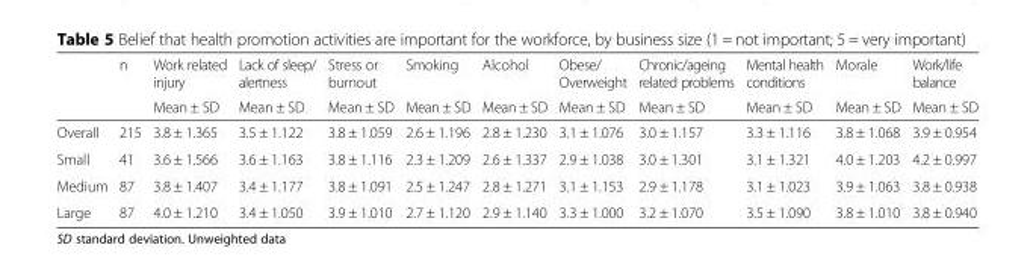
<table><thead><tr><td rowspan="2"></td><td rowspan="2">n</td><td rowspan="2">Work related injury Mean ± SD</td><td rowspan="2">Lack of sleep/ alertness Mean ± SD</td><td rowspan="2">Stress or burnout Mean ± SD</td><td rowspan="2">Smoking Mean ± SD</td><td rowspan="2">Alcohol Mean ± SD</td><td rowspan="2">Obese/ Overweight Mean ± SD</td><td rowspan="2">Chronic/ageing related problems Mean ± SD</td><td rowspan="2">Mental health conditions Mean ± SD</td><td rowspan="2">Morale Mean ± SD</td><td rowspan="2">Work/life balance Mean ± SD</td></tr><tr></tr></thead><tbody><tr><td>Overall</td><td>215</td><td>3.8 ± 1.365</td><td>3.5 ± 1.122</td><td>3.8 ± 1.059</td><td>2.6 ± 1.196</td><td>2.8 ± 1.230</td><td>3.1 ± 1.076</td><td>3.0 ± 1.157</td><td>3.3 ± 1.116</td><td>3.8 ± 1.068</td><td>3.9 ± 0.954</td></tr><tr><td>Small</td><td>41</td><td>3.6 ± 1.566</td><td>3.6 ± 1.163</td><td>3.8 ± 1.116</td><td>2.3 ± 1.209</td><td>2.6 ± 1.337</td><td>2.9 ± 1.038</td><td>3.0 ± 1.301</td><td>3.1 ± 1.321</td><td>4.0 ± 1.203</td><td>4.2 ± 0.997</td></tr><tr><td>Medium</td><td>87</td><td>3.8 ± 1.407</td><td>3.4 ± 1.177</td><td>3.8 ± 1.091</td><td>2.5 ± 1.247</td><td>2.8 ± 1.271</td><td>3.1 ± 1.153</td><td>2.9 ± 1.178</td><td>3.1 ± 1.023</td><td>3.9 ± 1.063</td><td>3.8 ± 0.938</td></tr><tr><td>Large</td><td>87</td><td>4.0 ± 1.210</td><td>3.4 ± 1.050</td><td>3.9 ± 1.010</td><td>2.7 ± 1.120</td><td>2.9 ± 1.140</td><td>3.3 ± 1.000</td><td>3.2 ± 1.070</td><td>3.5 ± 1.090</td><td>3.8 ± 1.010</td><td>3.8 ± 0.940</td></tr></tbody></table>